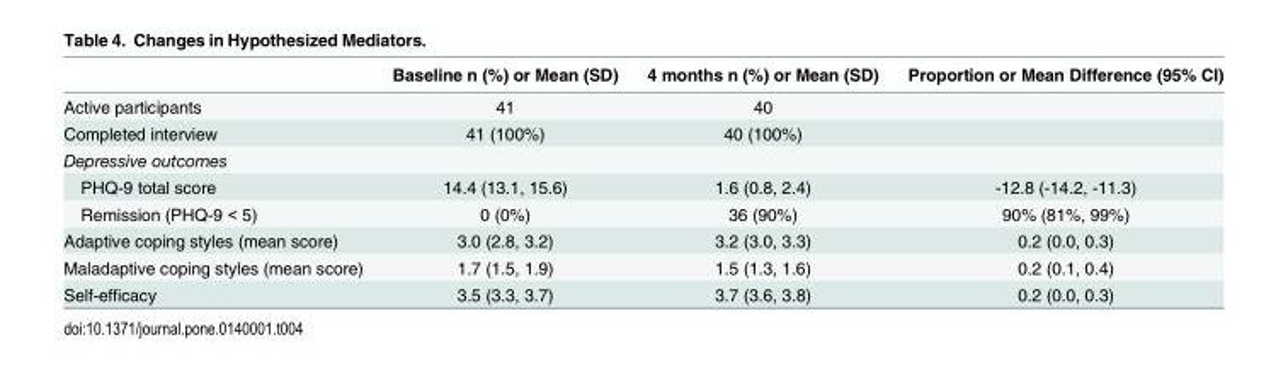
<table><thead><tr><td></td><td>Baseline n (%) or Mean (SD)</td><td>4 months n (%) or Mean (SD)</td><td>Proportion or Mean Difference (95% CI)</td></tr></thead><tbody><tr><td>Active participants</td><td>41</td><td>40</td><td></td></tr><tr><td>Completed interview</td><td>41 (100%)</td><td>40 (100%)</td><td></td></tr><tr><td colspan="4">Depressive outcomes</td></tr><tr><td>PHQ-9 total score</td><td>14.4 (13.1, 15.6)</td><td>1.6 (0.8, 2.4)</td><td>-12.8 (-14.2, -11.3)</td></tr><tr><td>Remission (PHQ-9 &lt; 5)</td><td>0 (0%)</td><td>36 (90%)</td><td>90% (81%, 99%)</td></tr><tr><td>Adaptive coping styles (mean score)</td><td>3.0 (2.8, 3.2)</td><td>3.2 (3.0, 3.3)</td><td>0.2 (0.0, 0.3)</td></tr><tr><td>Maladaptive coping styles (mean score)</td><td>1.7 (1.5, 1.9)</td><td>1.5 (1.3, 1.6)</td><td>0.2 (0.1, 0.4)</td></tr><tr><td>Self-efficacy</td><td>3.5 (3.3, 3.7)</td><td>3.7 (3.6, 3.8)</td><td>0.2 (0.0, 0.3)</td></tr></tbody></table>